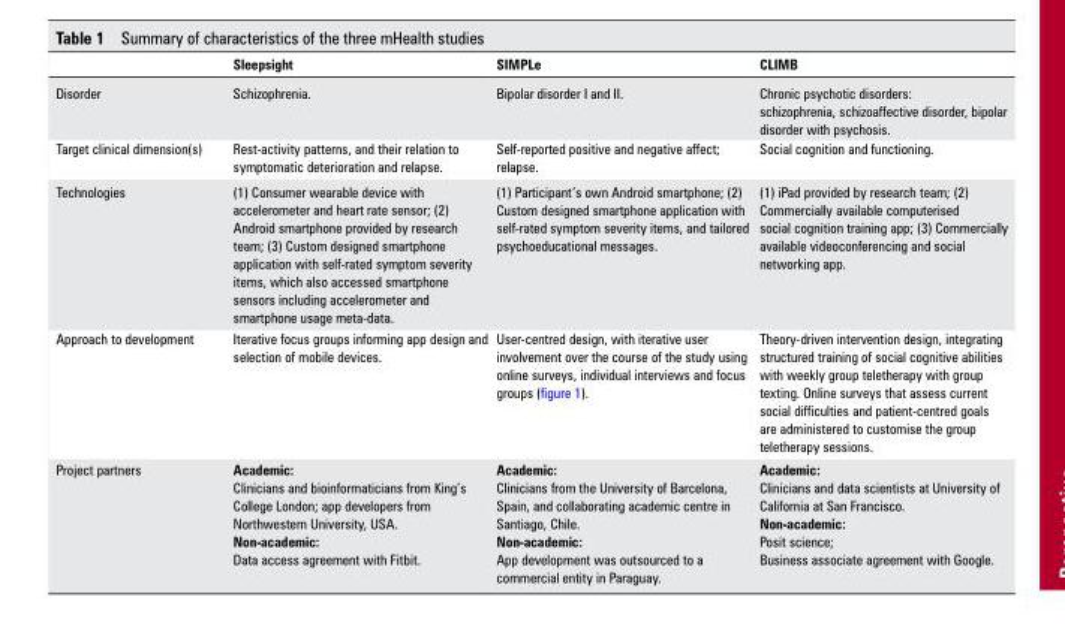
<table><thead><tr><td></td><td>sleepsight</td><td>simPle</td><td>climb</td></tr></thead><tbody><tr><td>Disorder</td><td>Schizophrenia.</td><td>Bipolar disorder I and II.</td><td>Chronic psychotic disorders: schizophrenia, schizoaffective disorder, bipolar disorder with psychosis.</td></tr><tr><td>Target clinical dimension(s)</td><td>Rest-activity patterns, and their relation to symptomatic deterioration and relapse.</td><td>Self-reported positive and negative affect; relapse.</td><td>Social cognition and functioning.</td></tr><tr><td>Technologies</td><td>(1) Consumer wearable device with accelerometer and heart rate sensor; (2) Android smartphone provided by research team; (3) Custom designed smartphone application with self-rated symptom severity items, which also accessed smartphone sensors including accelerometer and smartphone usage meta-data.</td><td>(1) Participant’s own Android smartphone; (2) Custom designed smartphone application with self-rated symptom severity items, and tailored psychoeducational messages.</td><td>(1) iPad provided by research team; (2) Commercially available computerised social cognition training app; (3) Commercially available videoconferencing and social networking app.</td></tr><tr><td>Approach to development</td><td>Iterative focus groups informing app design and selection of mobile devices.</td><td>User-centred design, with iterative user involvement over the course of the study using online surveys, individual interviews and focus groups (figure 1).</td><td>Theory-driven intervention design, integrating structured training of social cognitive abilities with weekly group teletherapy with group texting. Online surveys that assess current social difficulties and patient-centred goals are administered to customise the group teletherapy sessions.</td></tr><tr><td>Project partners</td><td>Academic: Clinicians and bioinformaticians from King’s College London; app developers from Northwestern University, USA. non-academic: Data access agreement with Fitbit.</td><td>Academic: Clinicians from the University of Barcelona, Spain, and collaborating academic centre in Santiago, Chile. non-academic: App development was outsourced to a commercial entity in Paraguay.</td><td>Academic: Clinicians and data scientists at University of California at San Francisco. non-academic: Posit science; Business associate agreement with Google.</td></tr></tbody></table>